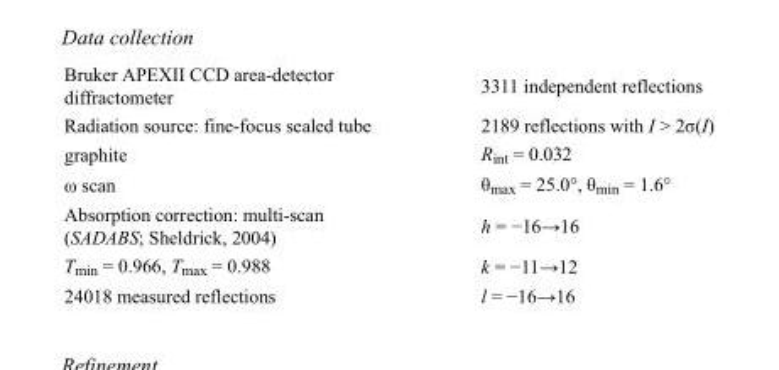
<table><tbody><tr><td>Bruker APEXII CCD area-detector diffractometer</td><td>3311 independent reflections</td></tr><tr><td>Radiation source: fine-focus sealed tube</td><td>2189 reflections with I &gt; 2σ(I)</td></tr><tr><td>graphite</td><td>R<sub>int</sub> = 0.032</td></tr><tr><td>ω scan</td><td>θ<sub>max</sub> = 25.0°, θ<sub>min</sub> = 1.6°</td></tr><tr><td>Absorption correction: multi-scan (SADABS; Sheldrick, 2004)</td><td>h = −16→16</td></tr><tr><td>T<sub>min</sub> = 0.966, T<sub>max</sub> = 0.988</td><td>k = −11→12</td></tr><tr><td>24018 measured reflections</td><td>l = −16→16</td></tr></tbody></table>